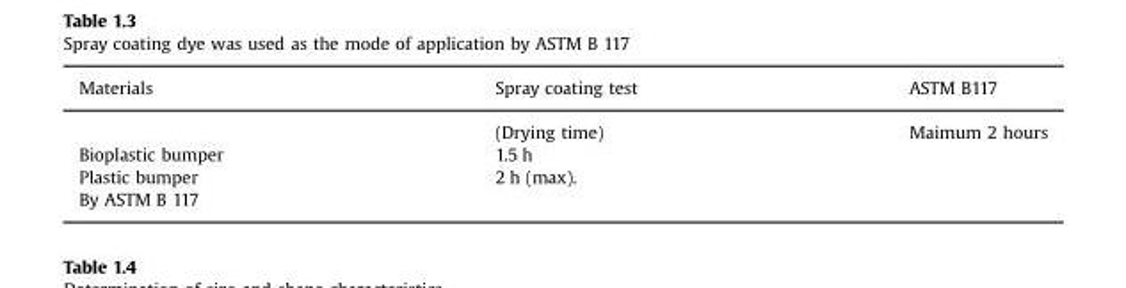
<table><thead><tr><td>Materials</td><td>Spray coating test</td><td>ASTM B117</td></tr></thead><tbody><tr><td></td><td>(Drying time)</td><td>Maimum 2 hours</td></tr><tr><td>Bioplastic bumper</td><td>1.5 h</td><td></td></tr><tr><td>Plastic bumper</td><td>2 h (max).</td><td></td></tr><tr><td>By ASTM B 117</td><td></td><td></td></tr></tbody></table>